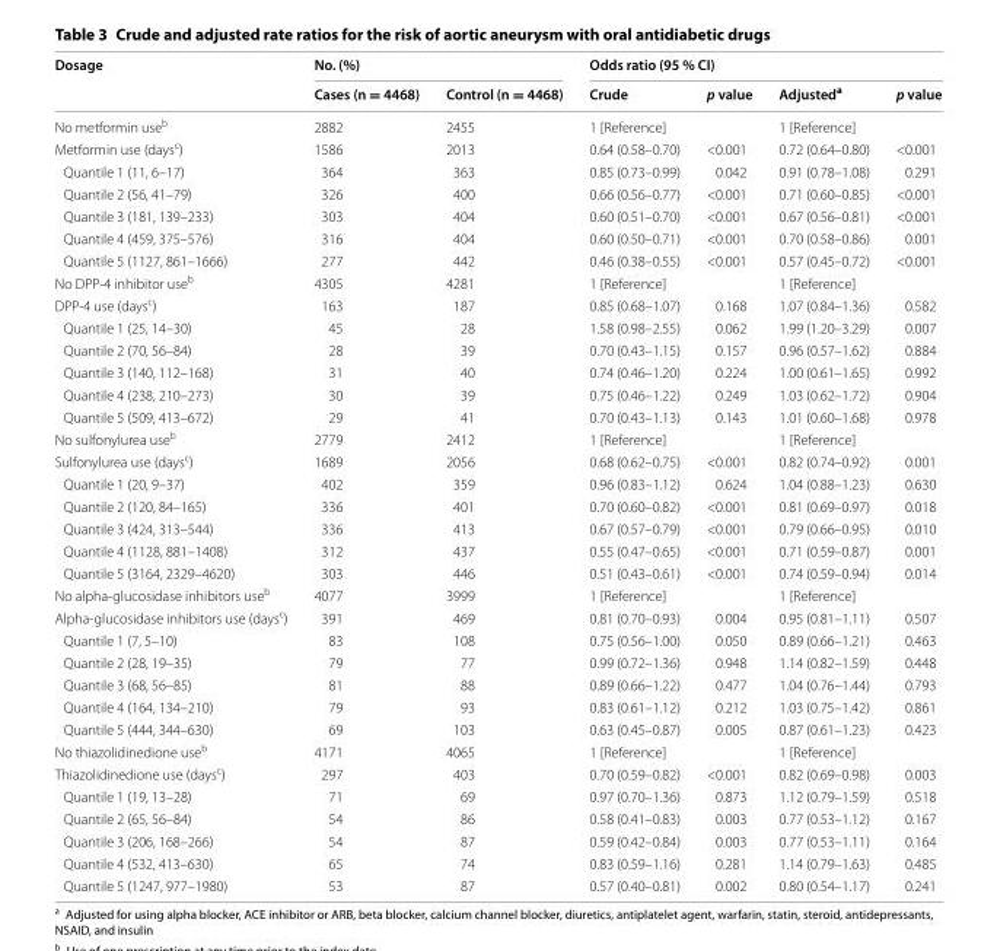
<table><thead><tr><td rowspan="2">Dosage</td><td colspan="2">No. (%)</td><td colspan="4">Odds ratio (95 % CI)</td></tr><tr><td>Cases (n = 4468)</td><td>Control (n = 4468)</td><td>Crude</td><td>p value</td><td>Adjusted<sup>a</sup></td><td>p value</td></tr></thead><tbody><tr><td>No metformin use<sup>b</sup></td><td>2882</td><td>2455</td><td>1 [Reference]</td><td></td><td>1 [Reference]</td><td></td></tr><tr><td>Metformin use (days<sup>c</sup>)</td><td>1586</td><td>2013</td><td>0.64 (0.58–0.70)</td><td>&lt;0.001</td><td>0.72 (0.64–0.80)</td><td>&lt;0.001</td></tr><tr><td>Quantile 1 (11, 6–17)</td><td>364</td><td>363</td><td>0.85 (0.73–0.99)</td><td>0.042</td><td>0.91 (0.78–1.08)</td><td>0.291</td></tr><tr><td>Quantile 2 (56, 41–79)</td><td>326</td><td>400</td><td>0.66 (0.56–0.77)</td><td>&lt;0.001</td><td>0.71 (0.60–0.85)</td><td>&lt;0.001</td></tr><tr><td>Quantile 3 (181, 139–233)</td><td>303</td><td>404</td><td>0.60 (0.51–0.70)</td><td>&lt;0.001</td><td>0.67 (0.56–0.81)</td><td>&lt;0.001</td></tr><tr><td>Quantile 4 (459, 375–576)</td><td>316</td><td>404</td><td>0.60 (0.50–0.71)</td><td>&lt;0.001</td><td>0.70 (0.58–0.86)</td><td>0.001</td></tr><tr><td>Quantile 5 (1127, 861–1666)</td><td>277</td><td>442</td><td>0.46 (0.38–0.55)</td><td>&lt;0.001</td><td>0.57 (0.45–0.72)</td><td>&lt;0.001</td></tr><tr><td>No DPP‑4 inhibitor use<sup>b</sup></td><td>4305</td><td>4281</td><td>1 [Reference]</td><td></td><td>1 [Reference]</td><td></td></tr><tr><td>DPP‑4 use (days<sup>c</sup>)</td><td>163</td><td>187</td><td>0.85 (0.68–1.07)</td><td>0.168</td><td>1.07 (0.84–1.36)</td><td>0.582</td></tr><tr><td>Quantile 1 (25, 14–30)</td><td>45</td><td>28</td><td>1.58 (0.98–2.55)</td><td>0.062</td><td>1.99 (1.20–3.29)</td><td>0.007</td></tr><tr><td>Quantile 2 (70, 56–84)</td><td>28</td><td>39</td><td>0.70 (0.43–1.15)</td><td>0.157</td><td>0.96 (0.57–1.62)</td><td>0.884</td></tr><tr><td>Quantile 3 (140, 112–168)</td><td>31</td><td>40</td><td>0.74 (0.46–1.20)</td><td>0.224</td><td>1.00 (0.61–1.65)</td><td>0.992</td></tr><tr><td>Quantile 4 (238, 210–273)</td><td>30</td><td>39</td><td>0.75 (0.46–1.22)</td><td>0.249</td><td>1.03 (0.62–1.72)</td><td>0.904</td></tr><tr><td>Quantile 5 (509, 413–672)</td><td>29</td><td>41</td><td>0.70 (0.43–1.13)</td><td>0.143</td><td>1.01 (0.60–1.68)</td><td>0.978</td></tr><tr><td>No sulfonylurea use<sup>b</sup></td><td>2779</td><td>2412</td><td>1 [Reference]</td><td></td><td>1 [Reference]</td><td></td></tr><tr><td>Sulfonylurea use (days<sup>c</sup>)</td><td>1689</td><td>2056</td><td>0.68 (0.62–0.75)</td><td>&lt;0.001</td><td>0.82 (0.74–0.92)</td><td>0.001</td></tr><tr><td>Quantile 1 (20, 9–37)</td><td>402</td><td>359</td><td>0.96 (0.83–1.12)</td><td>0.624</td><td>1.04 (0.88–1.23)</td><td>0.630</td></tr><tr><td>Quantile 2 (120, 84–165)</td><td>336</td><td>401</td><td>0.70 (0.60–0.82)</td><td>&lt;0.001</td><td>0.81 (0.69–0.97)</td><td>0.018</td></tr><tr><td>Quantile 3 (424, 313–544)</td><td>336</td><td>413</td><td>0.67 (0.57–0.79)</td><td>&lt;0.001</td><td>0.79 (0.66–0.95)</td><td>0.010</td></tr><tr><td>Quantile 4 (1128, 881–1408)</td><td>312</td><td>437</td><td>0.55 (0.47–0.65)</td><td>&lt;0.001</td><td>0.71 (0.59–0.87)</td><td>0.001</td></tr><tr><td>Quantile 5 (3164, 2329–4620)</td><td>303</td><td>446</td><td>0.51 (0.43–0.61)</td><td>&lt;0.001</td><td>0.74 (0.59–0.94)</td><td>0.014</td></tr><tr><td>No alpha‑glucosidase inhibitors use<sup>b</sup></td><td>4077</td><td>3999</td><td>1 [Reference]</td><td></td><td>1 [Reference]</td><td></td></tr><tr><td>Alpha‑glucosidase inhibitors use (days<sup>c</sup>)</td><td>391</td><td>469</td><td>0.81 (0.70–0.93)</td><td>0.004</td><td>0.95 (0.81–1.11)</td><td>0.507</td></tr><tr><td>Quantile 1 (7, 5–10)</td><td>83</td><td>108</td><td>0.75 (0.56–1.00)</td><td>0.050</td><td>0.89 (0.66–1.21)</td><td>0.463</td></tr><tr><td>Quantile 2 (28, 19–35)</td><td>79</td><td>77</td><td>0.99 (0.72–1.36)</td><td>0.948</td><td>1.14 (0.82–1.59)</td><td>0.448</td></tr><tr><td>Quantile 3 (68, 56–85)</td><td>81</td><td>88</td><td>0.89 (0.66–1.22)</td><td>0.477</td><td>1.04 (0.76–1.44)</td><td>0.793</td></tr><tr><td>Quantile 4 (164, 134–210)</td><td>79</td><td>93</td><td>0.83 (0.61–1.12)</td><td>0.212</td><td>1.03 (0.75–1.42)</td><td>0.861</td></tr><tr><td>Quantile 5 (444, 344–630)</td><td>69</td><td>103</td><td>0.63 (0.45–0.87)</td><td>0.005</td><td>0.87 (0.61–1.23)</td><td>0.423</td></tr><tr><td>No thiazolidinedione use<sup>b</sup></td><td>4171</td><td>4065</td><td>1 [Reference]</td><td></td><td>1 [Reference]</td><td></td></tr><tr><td>Thiazolidinedione use (days<sup>c</sup>)</td><td>297</td><td>403</td><td>0.70 (0.59–0.82)</td><td>&lt;0.001</td><td>0.82 (0.69–0.98)</td><td>0.003</td></tr><tr><td>Quantile 1 (19, 13–28)</td><td>71</td><td>69</td><td>0.97 (0.70–1.36)</td><td>0.873</td><td>1.12 (0.79–1.59)</td><td>0.518</td></tr><tr><td>Quantile 2 (65, 56–84)</td><td>54</td><td>86</td><td>0.58 (0.41–0.83)</td><td>0.003</td><td>0.77 (0.53–1.12)</td><td>0.167</td></tr><tr><td>Quantile 3 (206, 168–266)</td><td>54</td><td>87</td><td>0.59 (0.42–0.84)</td><td>0.003</td><td>0.77 (0.53–1.11)</td><td>0.164</td></tr><tr><td>Quantile 4 (532, 413–630)</td><td>65</td><td>74</td><td>0.83 (0.59–1.16)</td><td>0.281</td><td>1.14 (0.79–1.63)</td><td>0.485</td></tr><tr><td>Quantile 5 (1247, 977–1980)</td><td>53</td><td>87</td><td>0.57 (0.40–0.81)</td><td>0.002</td><td>0.80 (0.54–1.17)</td><td>0.241</td></tr></tbody></table>